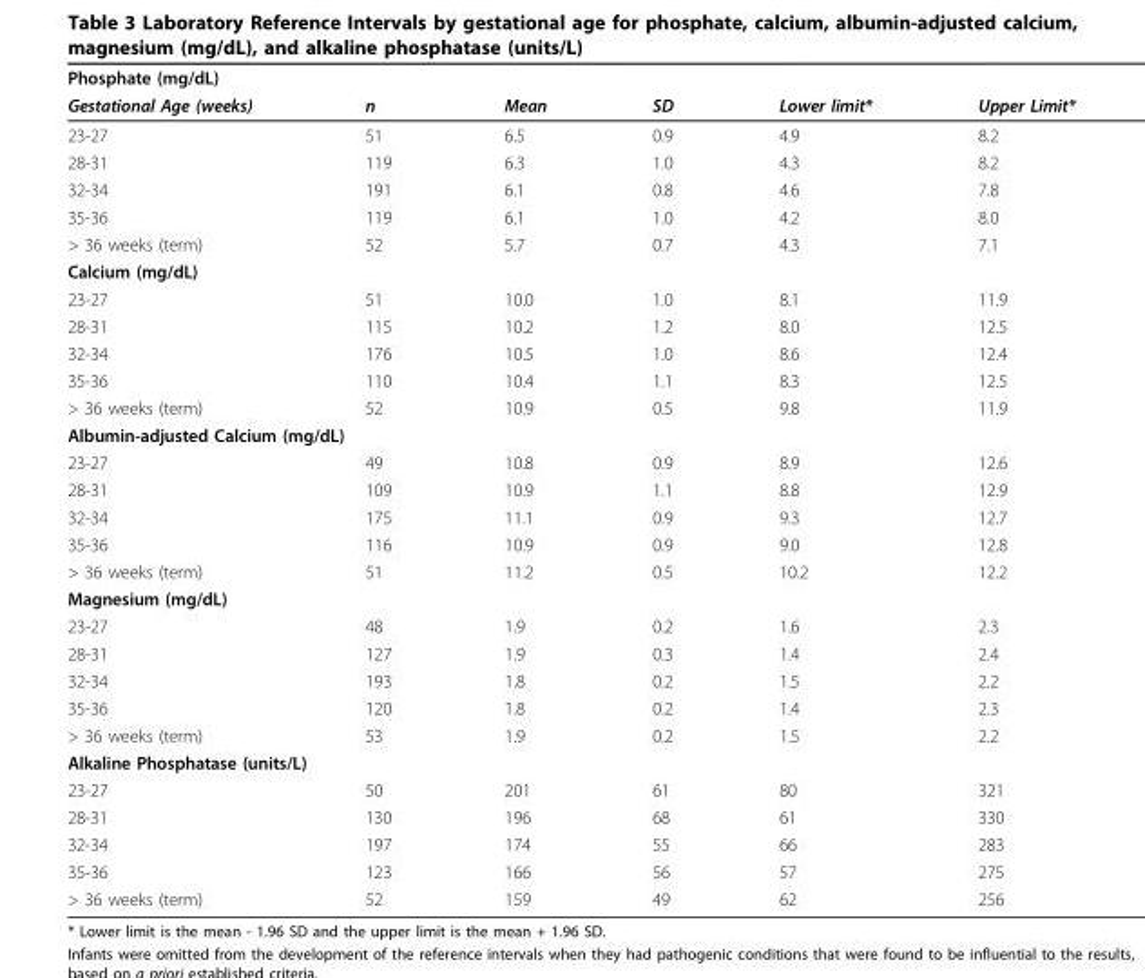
<table><thead><tr><td rowspan="2">Phosphate (mg/dL) Gestational Age (weeks)</td><td rowspan="2">n</td><td rowspan="2">Mean</td><td rowspan="2">SD</td><td rowspan="2">Lower limit*</td><td rowspan="2">Upper Limit*</td></tr><tr></tr></thead><tbody><tr><td>23-27</td><td>51</td><td>6.5</td><td>0.9</td><td>4.9</td><td>8.2</td></tr><tr><td>28-31</td><td>119</td><td>6.3</td><td>1.0</td><td>4.3</td><td>8.2</td></tr><tr><td>32-34</td><td>191</td><td>6.1</td><td>0.8</td><td>4.6</td><td>7.8</td></tr><tr><td>35-36</td><td>119</td><td>6.1</td><td>1.0</td><td>4.2</td><td>8.0</td></tr><tr><td>&gt; 36 weeks (term)</td><td>52</td><td>5.7</td><td>0.7</td><td>4.3</td><td>7.1</td></tr><tr><td colspan="6">Calcium (mg/dL)</td></tr><tr><td>23-27</td><td>51</td><td>10.0</td><td>1.0</td><td>8.1</td><td>11.9</td></tr><tr><td>28-31</td><td>115</td><td>10.2</td><td>1.2</td><td>8.0</td><td>12.5</td></tr><tr><td>32-34</td><td>176</td><td>10.5</td><td>1.0</td><td>8.6</td><td>12.4</td></tr><tr><td>35-36</td><td>110</td><td>10.4</td><td>1.1</td><td>8.3</td><td>12.5</td></tr><tr><td>&gt; 36 weeks (term)</td><td>52</td><td>10.9</td><td>0.5</td><td>9.8</td><td>11.9</td></tr><tr><td colspan="6">Albumin-adjusted Calcium (mg/dL)</td></tr><tr><td>23-27</td><td>49</td><td>10.8</td><td>0.9</td><td>8.9</td><td>12.6</td></tr><tr><td>28-31</td><td>109</td><td>10.9</td><td>1.1</td><td>8.8</td><td>12.9</td></tr><tr><td>32-34</td><td>175</td><td>11.1</td><td>0.9</td><td>9.3</td><td>12.7</td></tr><tr><td>35-36</td><td>116</td><td>10.9</td><td>0.9</td><td>9.0</td><td>12.8</td></tr><tr><td>&gt; 36 weeks (term)</td><td>51</td><td>11.2</td><td>0.5</td><td>10.2</td><td>12.2</td></tr><tr><td colspan="6">Magnesium (mg/dL)</td></tr><tr><td>23-27</td><td>48</td><td>1.9</td><td>0.2</td><td>1.6</td><td>2.3</td></tr><tr><td>28-31</td><td>127</td><td>1.9</td><td>0.3</td><td>1.4</td><td>2.4</td></tr><tr><td>32-34</td><td>193</td><td>1.8</td><td>0.2</td><td>1.5</td><td>2.2</td></tr><tr><td>35-36</td><td>120</td><td>1.8</td><td>0.2</td><td>1.4</td><td>2.3</td></tr><tr><td>&gt; 36 weeks (term)</td><td>53</td><td>1.9</td><td>0.2</td><td>1.5</td><td>2.2</td></tr><tr><td colspan="6">Alkaline Phosphatase (units/L)</td></tr><tr><td>23-27</td><td>50</td><td>201</td><td>61</td><td>80</td><td>321</td></tr><tr><td>28-31</td><td>130</td><td>196</td><td>68</td><td>61</td><td>330</td></tr><tr><td>32-34</td><td>197</td><td>174</td><td>55</td><td>66</td><td>283</td></tr><tr><td>35-36</td><td>123</td><td>166</td><td>56</td><td>57</td><td>275</td></tr><tr><td>&gt; 36 weeks (term)</td><td>52</td><td>159</td><td>49</td><td>62</td><td>256</td></tr></tbody></table>